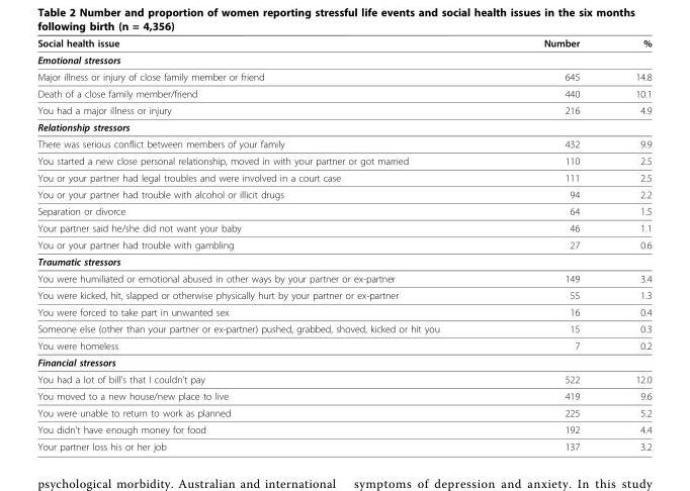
<table><thead><tr><td>Social health issue</td><td>Number</td><td>%</td></tr></thead><tbody><tr><td colspan="3">Emotional stressors</td></tr><tr><td>Major illness or injury of close family member or friend</td><td>645</td><td>14.8</td></tr><tr><td>Death of a close family member/friend</td><td>440</td><td>10.1</td></tr><tr><td>You had a major illness or injury</td><td>216</td><td>4.9</td></tr><tr><td colspan="3">Relationship stressors</td></tr><tr><td>There was serious conflict between members of your family</td><td>432</td><td>9.9</td></tr><tr><td>You started a new close personal relationship, moved in with your partner or got married</td><td>110</td><td>2.5</td></tr><tr><td>You or your partner had legal troubles and were involved in a court case</td><td>111</td><td>2.5</td></tr><tr><td>You or your partner had trouble with alcohol or illicit drugs</td><td>94</td><td>2.2</td></tr><tr><td>Separation or divorce</td><td>64</td><td>1.5</td></tr><tr><td>Your partner said he/she did not want your baby</td><td>46</td><td>1.1</td></tr><tr><td>You or your partner had trouble with gambling</td><td>27</td><td>0.6</td></tr><tr><td colspan="3">Traumatic stressors</td></tr><tr><td>You were humiliated or emotional abused in other ways by your partner or ex-partner</td><td>149</td><td>3.4</td></tr><tr><td>You were kicked, hit, slapped or otherwise physically hurt by your partner or ex-partner</td><td>55</td><td>1.3</td></tr><tr><td>You were forced to take part in unwanted sex</td><td>16</td><td>0.4</td></tr><tr><td>Someone else (other than your partner or ex-partner) pushed, grabbed, shoved, kicked or hit you</td><td>15</td><td>0.3</td></tr><tr><td>You were homeless</td><td>7</td><td>0.2</td></tr><tr><td colspan="3">Financial stressors</td></tr><tr><td>You had a lot of bill’s that I couldn’t pay</td><td>522</td><td>12.0</td></tr><tr><td>You moved to a new house/new place to live</td><td>419</td><td>9.6</td></tr><tr><td>You were unable to return to work as planned</td><td>225</td><td>5.2</td></tr><tr><td>You didn’t have enough money for food</td><td>192</td><td>4.4</td></tr><tr><td>Your partner loss his or her job</td><td>137</td><td>3.2</td></tr></tbody></table>